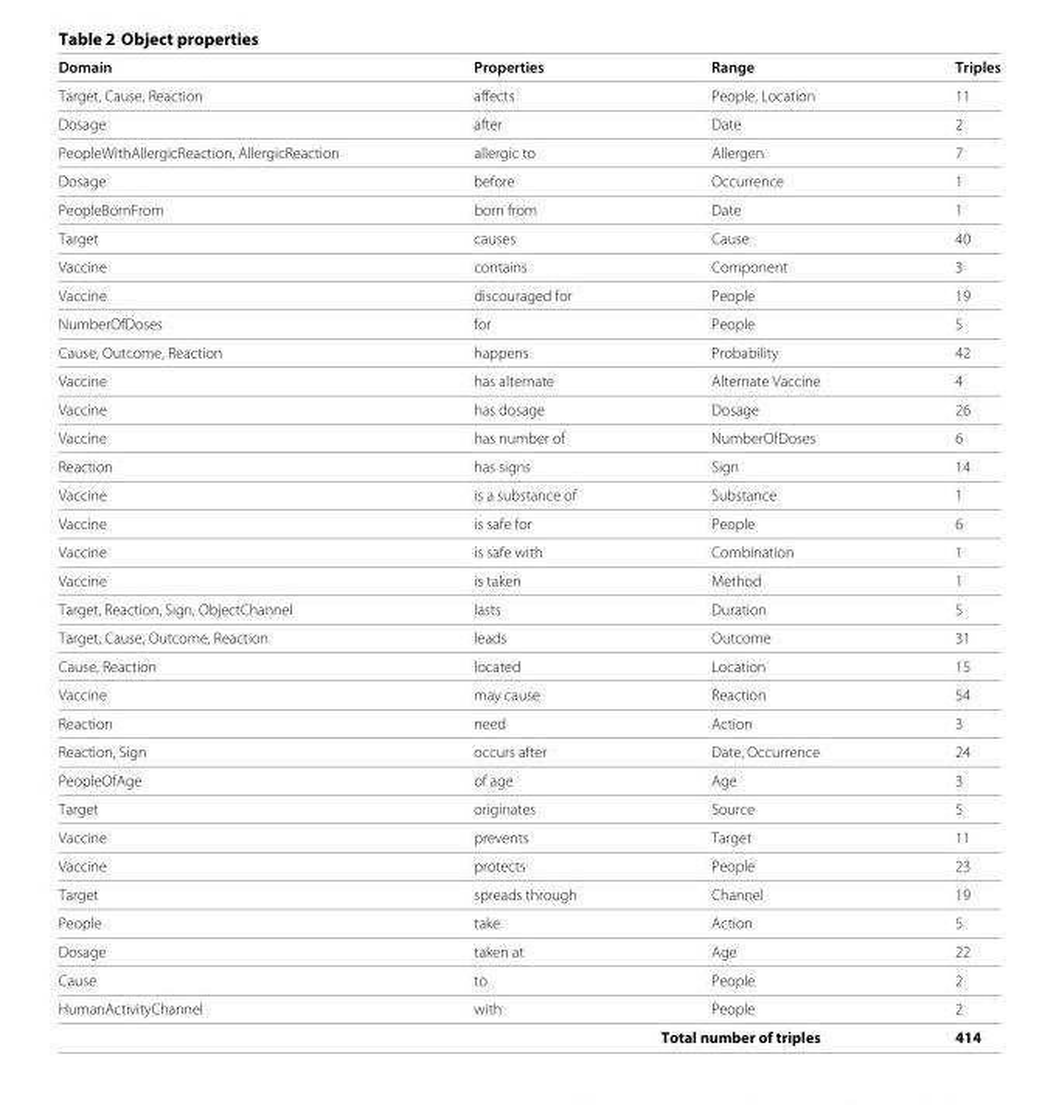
<table><thead><tr><td>Domain</td><td>Properties</td><td>Range</td><td>Triples</td></tr></thead><tbody><tr><td>Target, Cause, Reaction</td><td>affects</td><td>People, Location</td><td>11</td></tr><tr><td>Dosage</td><td>after</td><td>Date</td><td>2</td></tr><tr><td>PeopleWithAllergicReaction, AllergicReaction</td><td>allergic to</td><td>Allergen</td><td>7</td></tr><tr><td>Dosage</td><td>before</td><td>Occurrence</td><td>1</td></tr><tr><td>PeopleBornFrom</td><td>born from</td><td>Date</td><td>1</td></tr><tr><td>Target</td><td>causes</td><td>Cause</td><td>40</td></tr><tr><td>Vaccine</td><td>contains</td><td>Component</td><td>3</td></tr><tr><td>Vaccine</td><td>discouraged for</td><td>People</td><td>19</td></tr><tr><td>NumberOfDoses</td><td>for</td><td>People</td><td>5</td></tr><tr><td>Cause, Outcome, Reaction</td><td>happens</td><td>Probability</td><td>42</td></tr><tr><td>Vaccine</td><td>has alternate</td><td>Alternate Vaccine</td><td>4</td></tr><tr><td>Vaccine</td><td>has dosage</td><td>Dosage</td><td>26</td></tr><tr><td>Vaccine</td><td>has number of</td><td>NumberOfDoses</td><td>6</td></tr><tr><td>Reaction</td><td>has signs</td><td>Sign</td><td>14</td></tr><tr><td>Vaccine</td><td>is a substance of</td><td>Substance</td><td>1</td></tr><tr><td>Vaccine</td><td>is safe for</td><td>People</td><td>6</td></tr><tr><td>Vaccine</td><td>is safe with</td><td>Combination</td><td>1</td></tr><tr><td>Vaccine</td><td>is taken</td><td>Method</td><td>1</td></tr><tr><td>Target, Reaction, Sign, ObjectChannel</td><td>lasts</td><td>Duration</td><td>5</td></tr><tr><td>Target, Cause, Outcome, Reaction</td><td>leads</td><td>Outcome</td><td>31</td></tr><tr><td>Cause, Reaction</td><td>located</td><td>Location</td><td>15</td></tr><tr><td>Vaccine</td><td>may cause</td><td>Reaction</td><td>54</td></tr><tr><td>Reaction</td><td>need</td><td>Action</td><td>3</td></tr><tr><td>Reaction, Sign</td><td>occurs after</td><td>Date, Occurrence</td><td>24</td></tr><tr><td>PeopleOfAge</td><td>of age</td><td>Age</td><td>3</td></tr><tr><td>Target</td><td>originates</td><td>Source</td><td>5</td></tr><tr><td>Vaccine</td><td>prevents</td><td>Target</td><td>11</td></tr><tr><td>Vaccine</td><td>protects</td><td>People</td><td>23</td></tr><tr><td>Target</td><td>spreads through</td><td>Channel</td><td>19</td></tr><tr><td>People</td><td>take</td><td>Action</td><td>5</td></tr><tr><td>Dosage</td><td>taken at</td><td>Age</td><td>22</td></tr><tr><td>Cause</td><td>to</td><td>People</td><td>2</td></tr><tr><td>HumanActivityChannel</td><td>with</td><td>People</td><td>2</td></tr><tr><td colspan="3">Total number of triples</td><td>414</td></tr></tbody></table>